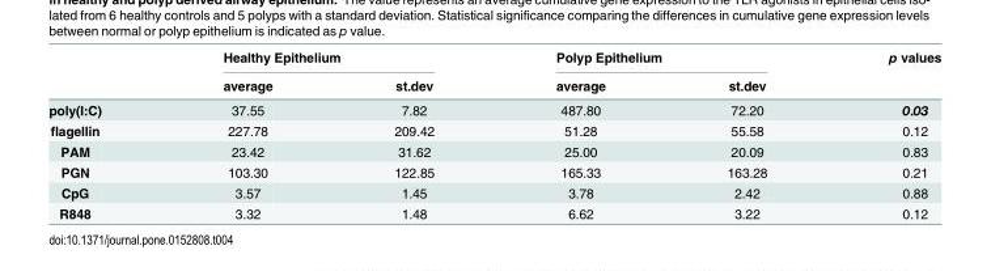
<table><thead><tr><td rowspan="2"></td><td colspan="2">Healthy Epithelium</td><td colspan="2">Polyp Epithelium</td><td rowspan="2">p values</td></tr><tr><td>average</td><td>st.dev</td><td>average</td><td>st.dev</td></tr></thead><tbody><tr><td>poly(I:C)</td><td>37.55</td><td>7.82</td><td>487.80</td><td>72.20</td><td>0.03</td></tr><tr><td>flagellin</td><td>227.78</td><td>209.42</td><td>51.28</td><td>55.58</td><td>0.12</td></tr><tr><td>PAM</td><td>23.42</td><td>31.62</td><td>25.00</td><td>20.09</td><td>0.83</td></tr><tr><td>PGN</td><td>103.30</td><td>122.85</td><td>165.33</td><td>163.28</td><td>0.21</td></tr><tr><td>CpG</td><td>3.57</td><td>1.45</td><td>3.78</td><td>2.42</td><td>0.88</td></tr><tr><td>R848</td><td>3.32</td><td>1.48</td><td>6.62</td><td>3.22</td><td>0.12</td></tr></tbody></table>